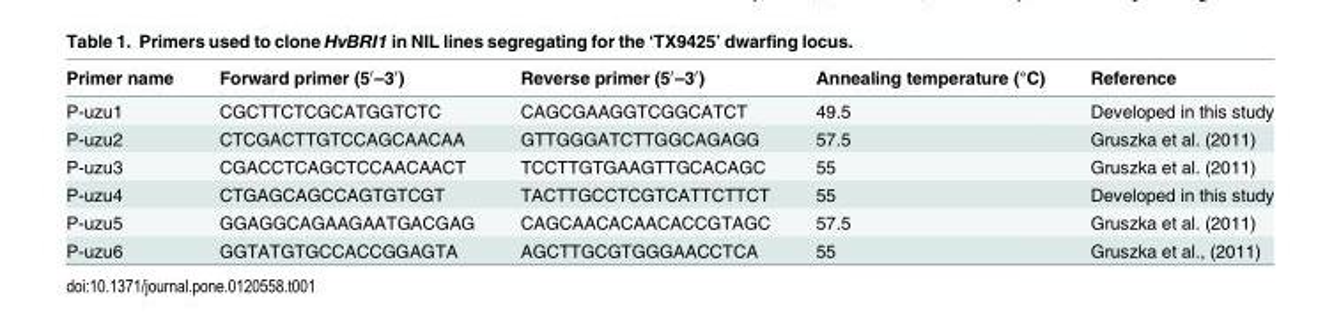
<table><thead><tr><td>Primer name</td><td>Forward primer (5′–3′)</td><td>Reverse primer (5′–3′)</td><td>Annealing temperature (°C)</td><td>Reference</td></tr></thead><tbody><tr><td>P-uzu1</td><td>CGCTTCTCGCATGGTCTC</td><td>CAGCGAAGGTCGGCATCT</td><td>49.5</td><td>Developed in this study</td></tr><tr><td>P-uzu2</td><td>CTCGACTTGTCCAGCAACAA</td><td>GTTGGGATCTTGGCAGAGG</td><td>57.5</td><td>Gruszka et al. (2011)</td></tr><tr><td>P-uzu3</td><td>CGACCTCAGCTCCAACAACT</td><td>TCCTTGTGAAGTTGCACAGC</td><td>55</td><td>Gruszka et al. (2011)</td></tr><tr><td>P-uzu4</td><td>CTGAGCAGCCAGTGTCGT</td><td>TACTTGCCTCGTCATTCTTCT</td><td>55</td><td>Developed in this study</td></tr><tr><td>P-uzu5</td><td>GGAGGCAGAAGAATGACGAG</td><td>CAGCAACACAACACCGTAGC</td><td>57.5</td><td>Gruszka et al. (2011)</td></tr><tr><td>P-uzu6</td><td>GGTATGTGCCACCGGAGTA</td><td>AGCTTGCGTGGGAACCTCA</td><td>55</td><td>Gruszka et al., (2011)</td></tr></tbody></table>